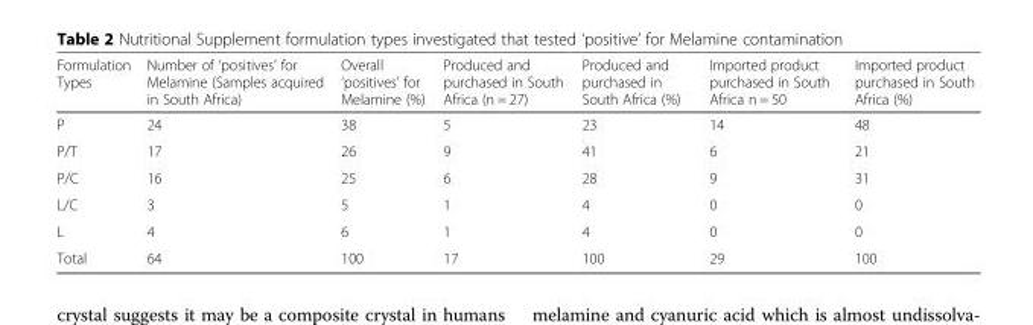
<table><thead><tr><td>Formulation Types</td><td>Number of ‘positives’ for Melamine (Samples acquired in South Africa)</td><td>Overall ‘positives’ for Melamine (%)</td><td>Produced and purchased in South Africa (n = 27)</td><td>Produced and purchased in South Africa (%)</td><td>Imported product purchased in South Africa n = 50</td><td>Imported product purchased in South Africa (%)</td></tr></thead><tbody><tr><td>P</td><td>24</td><td>38</td><td>5</td><td>23</td><td>14</td><td>48</td></tr><tr><td>P/T</td><td>17</td><td>26</td><td>9</td><td>41</td><td>6</td><td>21</td></tr><tr><td>P/C</td><td>16</td><td>25</td><td>6</td><td>28</td><td>9</td><td>31</td></tr><tr><td>L/C</td><td>3</td><td>5</td><td>1</td><td>4</td><td>0</td><td>0</td></tr><tr><td>L</td><td>4</td><td>6</td><td>1</td><td>4</td><td>0</td><td>0</td></tr><tr><td>Total</td><td>64</td><td>100</td><td>17</td><td>100</td><td>29</td><td>100</td></tr></tbody></table>